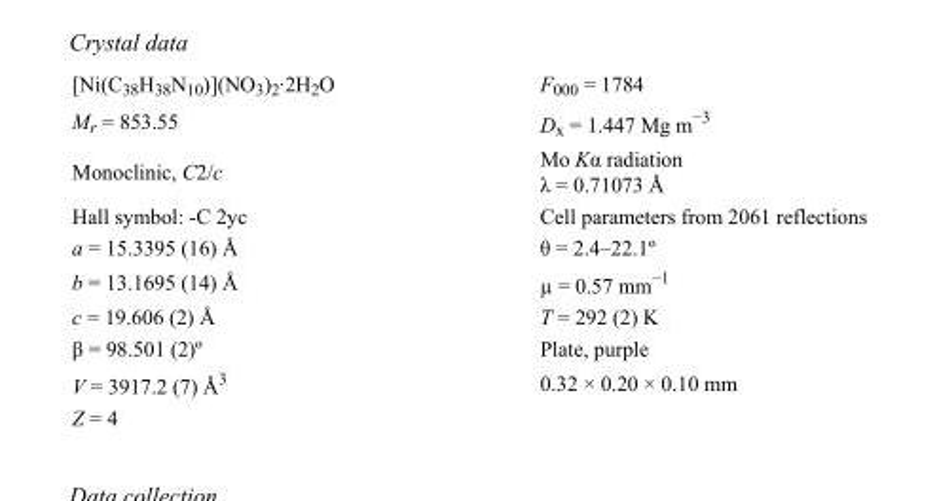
<table><tbody><tr><td>[Ni(C<sub>38</sub>H<sub>38</sub>N<sub>10</sub>)](NO<sub>3</sub>)<sub>2</sub>·2H<sub>2</sub>O</td><td>F000 = 1784</td></tr><tr><td>M<sub>r</sub> = 853.55</td><td>D<sub>x</sub> = 1.447 Mg m<sup>−3</sup></td></tr><tr><td>Monoclinic, C2/c</td><td>Mo Kα radiation λ = 0.71073 Å</td></tr><tr><td>Hall symbol: -C 2yc</td><td>Cell parameters from 2061 reflections</td></tr><tr><td>a = 15.3395 (16) Å</td><td>θ = 2.4–22.1º</td></tr><tr><td>b = 13.1695 (14) Å</td><td>µ = 0.57 mm−1</td></tr><tr><td>c = 19.606 (2) Å</td><td>T = 292 (2) K</td></tr><tr><td>β = 98.501 (2)º</td><td>Plate, purple</td></tr><tr><td>V = 3917.2 (7) Å<sup>3</sup></td><td>0.32 × 0.20 × 0.10 mm</td></tr><tr><td>Z = 4</td><td></td></tr></tbody></table>